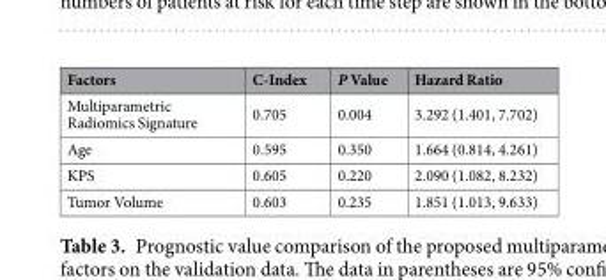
<table><thead><tr><td>Factors</td><td>C-Index</td><td>P Value</td><td>Hazard Ratio</td></tr></thead><tbody><tr><td>Multiparametric Radiomics Signature</td><td>0.705</td><td>0.004</td><td>3.292 (1.401, 7.702)</td></tr><tr><td>Age</td><td>0.595</td><td>0.350</td><td>1.664 (0.814, 4.261)</td></tr><tr><td>KPS</td><td>0.605</td><td>0.220</td><td>2.090 (1.082, 8.232)</td></tr><tr><td>Tumor Volume</td><td>0.603</td><td>0.235</td><td>1.851 (1.013, 9.633)</td></tr></tbody></table>